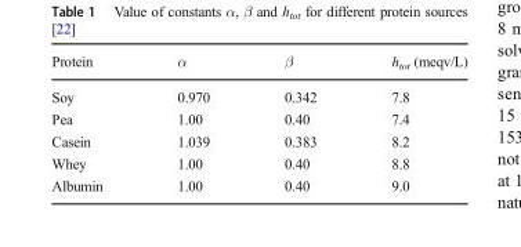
<table><thead><tr><td>Protein</td><td>α</td><td>β</td><td>h<sub>tot</sub> (meqv/L)</td></tr></thead><tbody><tr><td>Soy</td><td>0.970</td><td>0.342</td><td>7.8</td></tr><tr><td>Pea</td><td>1.00</td><td>0.40</td><td>7.4</td></tr><tr><td>Casein</td><td>1.039</td><td>0.383</td><td>8.2</td></tr><tr><td>Whey</td><td>1.00</td><td>0.40</td><td>8.8</td></tr><tr><td>Albumin</td><td>1.00</td><td>0.40</td><td>9.0</td></tr></tbody></table>